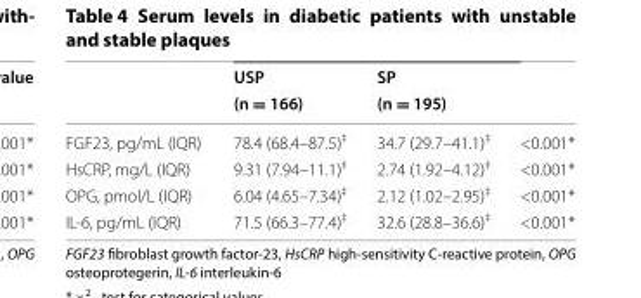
<table><thead><tr><td rowspan="2"></td><td rowspan="2">USP (n = 166)</td><td rowspan="2">SP (n = 195)</td><td rowspan="2"></td></tr><tr></tr></thead><tbody><tr><td>FGF23, pg/mL (IQR)</td><td>78.4 (68.4–87.5)<sup>‡</sup></td><td>34.7 (29.7–41.1)<sup>‡</sup></td><td>&lt;0.001*</td></tr><tr><td>HsCRP, mg/L (IQR)</td><td>9.31 (7.94–11.1)<sup>‡</sup></td><td>2.74 (1.92–4.12)<sup>‡</sup></td><td>&lt;0.001*</td></tr><tr><td>OPG, pmol/L (IQR)</td><td>6.04 (4.65–7.34)<sup>‡</sup></td><td>2.12 (1.02–2.95)<sup>‡</sup></td><td>&lt;0.001*</td></tr><tr><td>IL-6, pg/mL (IQR)</td><td>71.5 (66.3–77.4)<sup>‡</sup></td><td>32.6 (28.8–36.6)<sup>‡</sup></td><td>&lt;0.001*</td></tr></tbody></table>